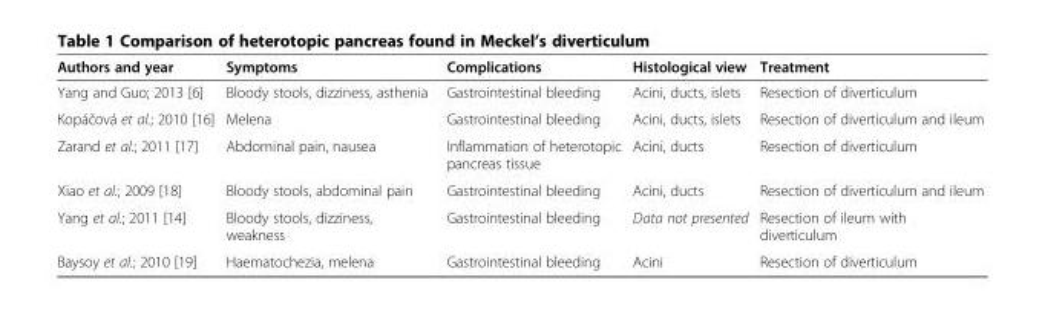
<table><thead><tr><td>Authors and year</td><td>Symptoms</td><td>Complications</td><td>Histological view</td><td>Treatment</td></tr></thead><tbody><tr><td>Yang and Guo; 2013 [6]</td><td>Bloody stools, dizziness, asthenia</td><td>Gastrointestinal bleeding</td><td>Acini, ducts, islets</td><td>Resection of diverticulum</td></tr><tr><td>Kopáčová et al.; 2010 [16]</td><td>Melena</td><td>Gastrointestinal bleeding</td><td>Acini, ducts, islets</td><td>Resection of diverticulum and ileum</td></tr><tr><td>Zarand et al.; 2011 [17]</td><td>Abdominal pain, nausea</td><td>Inflammation of heterotopic pancreas tissue</td><td>Acini, ducts</td><td>Resection of diverticulum</td></tr><tr><td>Xiao et al.; 2009 [18]</td><td>Bloody stools, abdominal pain</td><td>Gastrointestinal bleeding</td><td>Acini, ducts</td><td>Resection of diverticulum and ileum</td></tr><tr><td>Yang et al.; 2011 [14]</td><td>Bloody stools, dizziness, weakness</td><td>Gastrointestinal bleeding</td><td>Data not presented</td><td>Resection of ileum with diverticulum</td></tr><tr><td>Baysoy et al.; 2010 [19]</td><td>Haematochezia, melena</td><td>Gastrointestinal bleeding</td><td>Acini</td><td>Resection of diverticulum</td></tr></tbody></table>